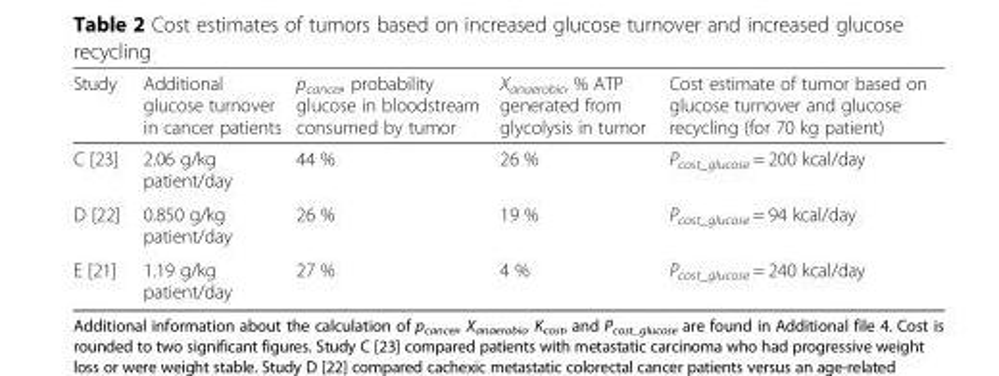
<table><thead><tr><td>Study</td><td>Additional glucose turnover in cancer patients</td><td>p<sub>cancer</sub>, probability glucose in bloodstream consumed by tumor</td><td>X<sub>anaerobic</sub>, % ATP generated from glycolysis in tumor</td><td>Cost estimate of tumor based on glucose turnover and glucose recycling (for 70 kg patient)</td></tr></thead><tbody><tr><td>C [23]</td><td>2.06 g/kg patient/day</td><td>44 %</td><td>26 %</td><td>P<sub>cost_glucose</sub> = 200 kcal/day</td></tr><tr><td>D [22]</td><td>0.850 g/kg patient/day</td><td>26 %</td><td>19 %</td><td>P<sub>cost_glucose</sub> = 94 kcal/day</td></tr><tr><td>E [21]</td><td>1.19 g/kg patient/day</td><td>27 %</td><td>4 %</td><td>P<sub>cost_glucose</sub> = 240 kcal/day</td></tr></tbody></table>